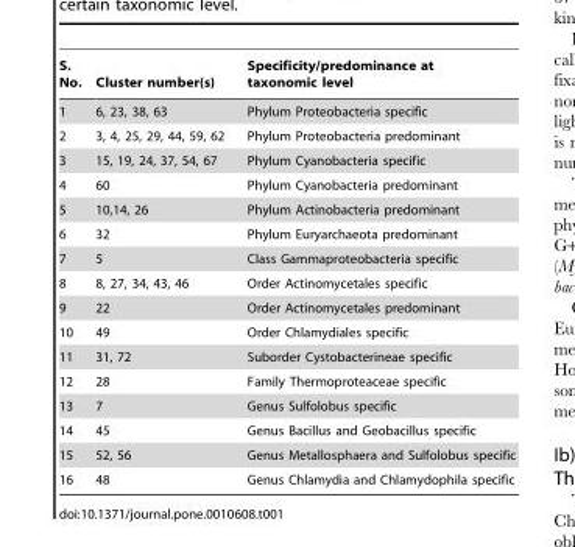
<table><thead><tr><td>S. No.</td><td>Cluster number(s)</td><td>Specificity/predominance at taxonomic level</td></tr></thead><tbody><tr><td>1</td><td>6, 23, 38, 63</td><td>Phylum Proteobacteria specific</td></tr><tr><td>2</td><td>3, 4, 25, 29, 44, 59, 62</td><td>Phylum Proteobacteria predominant</td></tr><tr><td>3</td><td>15, 19, 24, 37, 54, 67</td><td>Phylum Cyanobacteria specific</td></tr><tr><td>4</td><td>60</td><td>Phylum Cyanobacteria predominant</td></tr><tr><td>5</td><td>10,14, 26</td><td>Phylum Actinobacteria predominant</td></tr><tr><td>6</td><td>32</td><td>Phylum Euryarchaeota predominant</td></tr><tr><td>7</td><td>5</td><td>Class Gammaproteobacteria specific</td></tr><tr><td>8</td><td>8, 27, 34, 43, 46</td><td>Order Actinomycetales specific</td></tr><tr><td>9</td><td>22</td><td>Order Actinomycetales predominant</td></tr><tr><td>10</td><td>49</td><td>Order Chlamydiales specific</td></tr><tr><td>11</td><td>31, 72</td><td>Suborder Cystobacterineae specific</td></tr><tr><td>12</td><td>28</td><td>Family Thermoproteaceae specific</td></tr><tr><td>13</td><td>7</td><td>Genus Sulfolobus specific</td></tr><tr><td>14</td><td>45</td><td>Genus Bacillus and Geobacillus specific</td></tr><tr><td>15</td><td>52, 56</td><td>Genus Metallosphaera and Sulfolobus specific</td></tr><tr><td>16</td><td>48</td><td>Genus Chlamydia and Chlamydophila specific</td></tr></tbody></table>